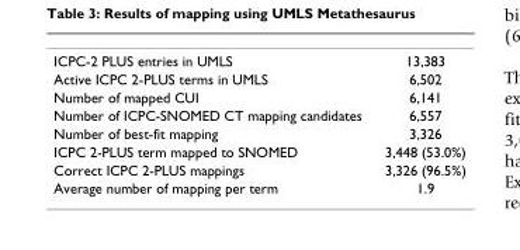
<table><tbody><tr><td>ICPC-2 PLUS entries in UMLS</td><td>13,383</td></tr><tr><td>Active ICPC 2-PLUS terms in UMLS</td><td>6,502</td></tr><tr><td>Number of mapped CUI</td><td>6,141</td></tr><tr><td>Number of ICPC-SNOMED CT mapping candidates</td><td>6,557</td></tr><tr><td>Number of best-fit mapping</td><td>3,326</td></tr><tr><td>ICPC 2-PLUS term mapped to SNOMED</td><td>3,448 (53.0%)</td></tr><tr><td>Correct ICPC 2-PLUS mappings</td><td>3,326 (96.5%)</td></tr><tr><td>Average number of mapping per term</td><td>1.9</td></tr></tbody></table>